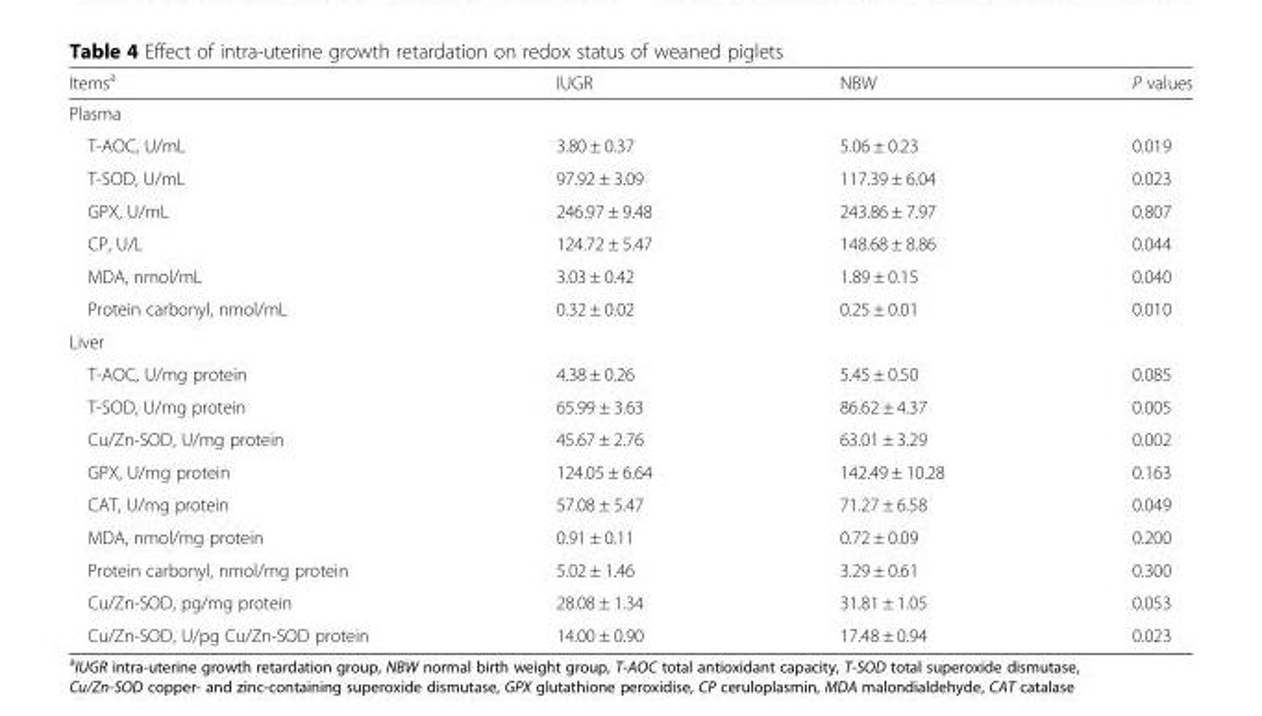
<table><thead><tr><td>Items<sup>a</sup></td><td>IUGR</td><td>NBW</td><td>P values</td></tr></thead><tbody><tr><td colspan="4">Plasma</td></tr><tr><td>T-AOC, U/mL</td><td>3.80 ± 0.37</td><td>5.06 ± 0.23</td><td>0.019</td></tr><tr><td>T-SOD, U/mL</td><td>97.92 ± 3.09</td><td>117.39 ± 6.04</td><td>0.023</td></tr><tr><td>GPX, U/mL</td><td>246.97 ± 9.48</td><td>243.86 ± 7.97</td><td>0.807</td></tr><tr><td>CP, U/L</td><td>124.72 ± 5.47</td><td>148.68 ± 8.86</td><td>0.044</td></tr><tr><td>MDA, nmol/mL</td><td>3.03 ± 0.42</td><td>1.89 ± 0.15</td><td>0.040</td></tr><tr><td>Protein carbonyl, nmol/mL</td><td>0.32 ± 0.02</td><td>0.25 ± 0.01</td><td>0.010</td></tr><tr><td colspan="4">Liver</td></tr><tr><td>T-AOC, U/mg protein</td><td>4.38 ± 0.26</td><td>5.45 ± 0.50</td><td>0.085</td></tr><tr><td>T-SOD, U/mg protein</td><td>65.99 ± 3.63</td><td>86.62 ± 4.37</td><td>0.005</td></tr><tr><td>Cu/Zn-SOD, U/mg protein</td><td>45.67 ± 2.76</td><td>63.01 ± 3.29</td><td>0.002</td></tr><tr><td>GPX, U/mg protein</td><td>124.05 ± 6.64</td><td>142.49 ± 10.28</td><td>0.163</td></tr><tr><td>CAT, U/mg protein</td><td>57.08 ± 5.47</td><td>71.27 ± 6.58</td><td>0.049</td></tr><tr><td>MDA, nmol/mg protein</td><td>0.91 ± 0.11</td><td>0.72 ± 0.09</td><td>0.200</td></tr><tr><td>Protein carbonyl, nmol/mg protein</td><td>5.02 ± 1.46</td><td>3.29 ± 0.61</td><td>0.300</td></tr><tr><td>Cu/Zn-SOD, pg/mg protein</td><td>28.08 ± 1.34</td><td>31.81 ± 1.05</td><td>0.053</td></tr><tr><td>Cu/Zn-SOD, U/pg Cu/Zn-SOD protein</td><td>14.00 ± 0.90</td><td>17.48 ± 0.94</td><td>0.023</td></tr></tbody></table>